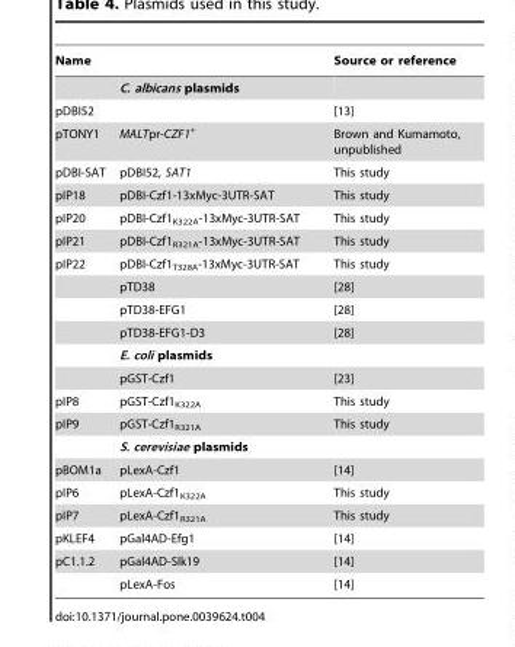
<table><thead><tr><td>Name</td><td></td><td>Source or reference</td></tr></thead><tbody><tr><td></td><td>C. albicans plasmids</td><td></td></tr><tr><td>pDBI52</td><td></td><td>[13]</td></tr><tr><td>pTONY1</td><td>MALTpr-CZF1<sup>+</sup></td><td>Brown and Kumamoto, unpublished</td></tr><tr><td>pDBI-SAT</td><td>pDBI52, SAT1</td><td>This study</td></tr><tr><td>pIP18</td><td>pDBI-Czf1-13xMyc-3UTR-SAT</td><td>This study</td></tr><tr><td>pIP20</td><td>pDBI-Czf1<sub>K322A</sub>-13xMyc-3UTR-SAT</td><td>This study</td></tr><tr><td>pIP21</td><td>pDBI-Czf1<sub>R321A</sub>-13xMyc-3UTR-SAT</td><td>This study</td></tr><tr><td rowspan="6">pIP22</td><td>pDBI-Czf1<sub>T328A</sub>-13xMyc-3UTR-SAT</td><td>This study</td></tr><tr><td>pTD38</td><td>[28]</td></tr><tr><td>pTD38-EFG1</td><td>[28]</td></tr><tr><td>pTD38-EFG1-D3</td><td>[28]</td></tr><tr><td>E. coli plasmids</td><td></td></tr><tr><td>pGST-Czf1</td><td>[23]</td></tr><tr><td>pIP8</td><td>pGST-Czf1<sub>K322A</sub></td><td>This study</td></tr><tr><td rowspan="2">pIP9</td><td>pGST-Czf1<sub>R321A</sub></td><td>This study</td></tr><tr><td>S. cerevisiae plasmids</td><td></td></tr><tr><td>pBOM1a</td><td>pLexA-Czf1</td><td>[14]</td></tr><tr><td>pIP6</td><td>pLexA-Czf1<sub>K322A</sub></td><td>This study</td></tr><tr><td>pIP7</td><td>pLexA-Czf1<sub>R321A</sub></td><td>This study</td></tr><tr><td>pKLEF4</td><td>pGal4AD-Efg1</td><td>[14]</td></tr><tr><td rowspan="2">pC1.1.2</td><td>pGal4AD-Slk19</td><td>[14]</td></tr><tr><td>pLexA-Fos</td><td>[14]</td></tr></tbody></table>